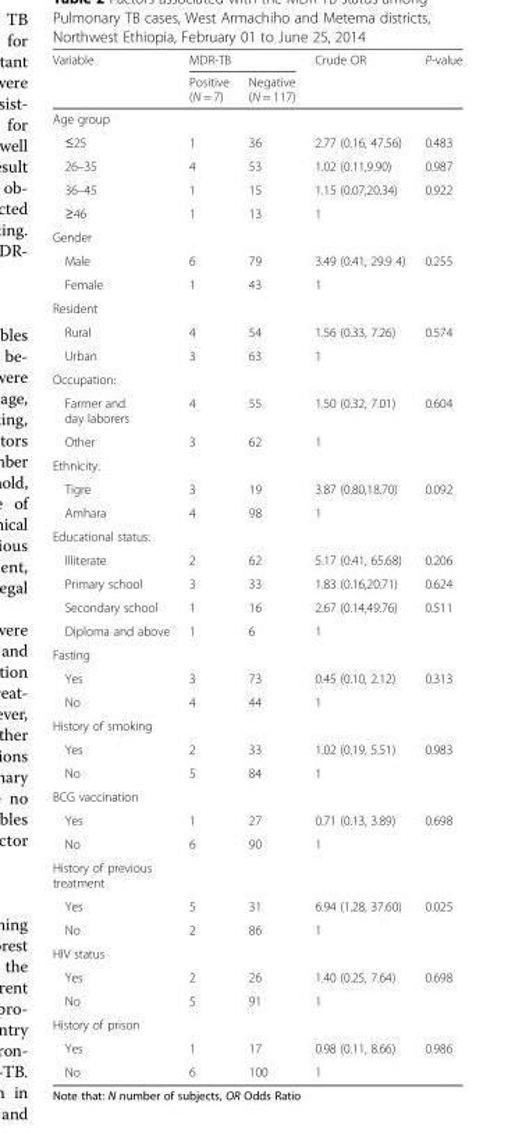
<table><thead><tr><td rowspan="2">Variable</td><td colspan="2">MDR-TB</td><td rowspan="2">Crude OR</td><td rowspan="2">P-value</td></tr><tr><td>Positive (N = 7)</td><td>Negative (N = 117)</td></tr></thead><tbody><tr><td colspan="5">Age group</td></tr><tr><td>≤25</td><td>1</td><td>36</td><td>2.77 (0.16, 47.56)</td><td>0.483</td></tr><tr><td>26–35</td><td>4</td><td>53</td><td>1.02 (0.11,9.90)</td><td>0.987</td></tr><tr><td>36–45</td><td>1</td><td>15</td><td>1.15 (0.07,20.34)</td><td>0.922</td></tr><tr><td>≥46</td><td>1</td><td>13</td><td>1</td><td></td></tr><tr><td colspan="5">Gender</td></tr><tr><td>Male</td><td>6</td><td>79</td><td>3.49 (0.41, 29.9 4)</td><td>0.255</td></tr><tr><td>Female</td><td>1</td><td>43</td><td>1</td><td></td></tr><tr><td colspan="5">Resident</td></tr><tr><td>Rural</td><td>4</td><td>54</td><td>1.56 (0.33, 7.26)</td><td>0.574</td></tr><tr><td>Urban</td><td>3</td><td>63</td><td>1</td><td></td></tr><tr><td colspan="5">Occupation:</td></tr><tr><td>Farmer and day laborers</td><td>4</td><td>55</td><td>1.50 (0.32, 7.01)</td><td>0.604</td></tr><tr><td>Other</td><td>3</td><td>62</td><td>1</td><td></td></tr><tr><td colspan="5">Ethnicity:</td></tr><tr><td>Tigre</td><td>3</td><td>19</td><td>3.87 (0.80,18.70)</td><td>0.092</td></tr><tr><td>Amhara</td><td>4</td><td>98</td><td>1</td><td></td></tr><tr><td colspan="5">Educational status:</td></tr><tr><td>Illiterate</td><td>2</td><td>62</td><td>5.17 (0.41, 65.68)</td><td>0.206</td></tr><tr><td>Primary school</td><td>3</td><td>33</td><td>1.83 (0.16,20.71)</td><td>0.624</td></tr><tr><td>Secondary school</td><td>1</td><td>16</td><td>2.67 (0.14,49.76)</td><td>0.511</td></tr><tr><td>Diploma and above</td><td>1</td><td>6</td><td>1</td><td></td></tr><tr><td colspan="5">Fasting</td></tr><tr><td>Yes</td><td>3</td><td>73</td><td>0.45 (0.10, 2.12)</td><td>0.313</td></tr><tr><td>No</td><td>4</td><td>44</td><td>1</td><td></td></tr><tr><td colspan="5">History of smoking</td></tr><tr><td>Yes</td><td>2</td><td>33</td><td>1.02 (0.19, 5.51)</td><td>0.983</td></tr><tr><td>No</td><td>5</td><td>84</td><td>1</td><td></td></tr><tr><td colspan="5">BCG vaccination</td></tr><tr><td>Yes</td><td>1</td><td>27</td><td>0.71 (0.13, 3.89)</td><td>0.698</td></tr><tr><td>No</td><td>6</td><td>90</td><td>1</td><td></td></tr><tr><td colspan="5">History of previous treatment</td></tr><tr><td>Yes</td><td>5</td><td>31</td><td>6.94 (1.28, 37.60)</td><td>0.025</td></tr><tr><td>No</td><td>2</td><td>86</td><td>1</td><td></td></tr><tr><td colspan="5">HIV status</td></tr><tr><td>Yes</td><td>2</td><td>26</td><td>1.40 (0.25, 7.64)</td><td>0.698</td></tr><tr><td>No</td><td>5</td><td>91</td><td>1</td><td></td></tr><tr><td colspan="5">History of prison</td></tr><tr><td>Yes</td><td>1</td><td>17</td><td>0.98 (0.11, 8.66)</td><td>0.986</td></tr><tr><td>No</td><td>6</td><td>100</td><td>1</td><td></td></tr></tbody></table>